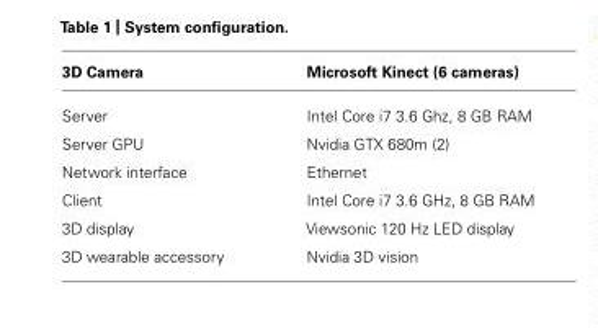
<table><thead><tr><td>3D Camera</td><td>Microsoft Kinect (6 cameras)</td></tr></thead><tbody><tr><td>Server</td><td>Intel Core i7 3.6 Ghz, 8 GB RAM</td></tr><tr><td>Server GPU</td><td>Nvidia GTX 680m (2)</td></tr><tr><td>Network interface</td><td>Ethernet</td></tr><tr><td>Client</td><td>Intel Core i7 3.6 GHz, 8 GB RAM</td></tr><tr><td>3D display</td><td>Viewsonic 120 Hz LED display</td></tr><tr><td>3D wearable accessory</td><td>Nvidia 3D vision</td></tr></tbody></table>